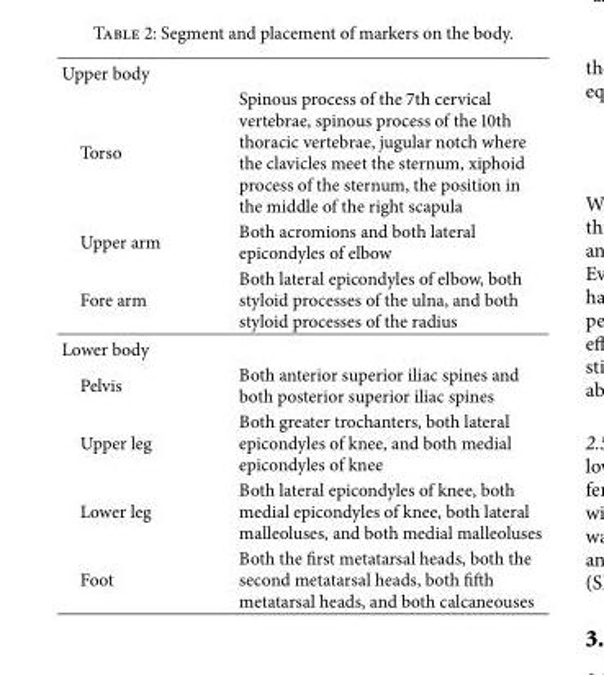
<table><tbody><tr><td colspan="2">Upper body</td></tr><tr><td>Torso</td><td>Spinous process of the 7th cervical vertebrae, spinous process of the 10th thoracic vertebrae, jugular notch where the clavicles meet the sternum, xiphoid process of the sternum, the position in the middle of the right scapula</td></tr><tr><td>Upper arm</td><td>Both acromions and both lateral epicondyles of elbow</td></tr><tr><td>Fore arm</td><td>Both lateral epicondyles of elbow, both styloid processes of the ulna, and both styloid processes of the radius</td></tr><tr><td colspan="2">Lower body</td></tr><tr><td>Pelvis</td><td>Both anterior superior iliac spines and both posterior superior iliac spines</td></tr><tr><td>Upper leg</td><td>Both greater trochanters, both lateral epicondyles of knee, and both medial epicondyles of knee</td></tr><tr><td>Lower leg</td><td>Both lateral epicondyles of knee, both medial epicondyles of knee, both lateral malleoluses, and both medial malleoluses</td></tr><tr><td>Foot</td><td>Both the first metatarsal heads, both the second metatarsal heads, both fifth metatarsal heads, and both calcaneouses</td></tr></tbody></table>